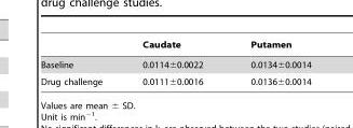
<table><thead><tr><td></td><td>Caudate</td><td>Putamen</td></tr></thead><tbody><tr><td>Baseline</td><td>0.0114±0.0022</td><td>0.0134±0.0014</td></tr><tr><td>Drug challenge</td><td>0.0111±0.0016</td><td>0.0136±0.0014</td></tr></tbody></table>